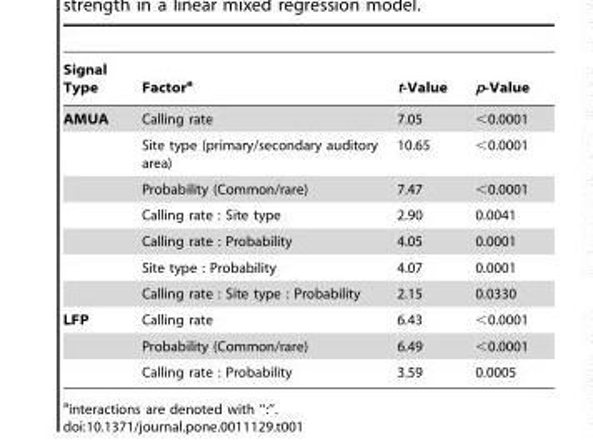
<table><thead><tr><td>Signal Type</td><td>Factor<sup>a</sup></td><td>t-Value</td><td>p-Value</td></tr></thead><tbody><tr><td rowspan="7">AMUA</td><td>Calling rate</td><td>7.05</td><td>&lt;0.0001</td></tr><tr><td>Site type (primary/secondary auditory area)</td><td>10.65</td><td>&lt;0.0001</td></tr><tr><td>Probability (Common/rare)</td><td>7.47</td><td>&lt;0.0001</td></tr><tr><td>Calling rate : Site type</td><td>2.90</td><td>0.0041</td></tr><tr><td>Calling rate : Probability</td><td>4.05</td><td>0.0001</td></tr><tr><td>Site type : Probability</td><td>4.07</td><td>0.0001</td></tr><tr><td>Calling rate : Site type : Probability</td><td>2.15</td><td>0.0330</td></tr><tr><td rowspan="3">LFP</td><td>Calling rate</td><td>6.43</td><td>&lt;0.0001</td></tr><tr><td>Probability (Common/rare)</td><td>6.49</td><td>&lt;0.0001</td></tr><tr><td>Calling rate : Probability</td><td>3.59</td><td>0.0005</td></tr></tbody></table>